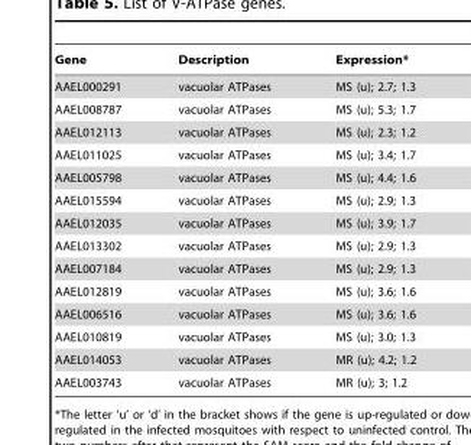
<table><thead><tr><td>Gene</td><td>Description</td><td>Expression*</td></tr></thead><tbody><tr><td>AAEL000291</td><td>vacuolar ATPases</td><td>MS (u); 2.7; 1.3</td></tr><tr><td>AAEL008787</td><td>vacuolar ATPases</td><td>MS (u); 5.3; 1.7</td></tr><tr><td>AAEL012113</td><td>vacuolar ATPases</td><td>MS (u); 2.3; 1.2</td></tr><tr><td>AAEL011025</td><td>vacuolar ATPases</td><td>MS (u); 3.4; 1.7</td></tr><tr><td>AAEL005798</td><td>vacuolar ATPases</td><td>MS (u); 4.4; 1.6</td></tr><tr><td>AAEL015594</td><td>vacuolar ATPases</td><td>MS (u); 2.9; 1.3</td></tr><tr><td>AAEL012035</td><td>vacuolar ATPases</td><td>MS (u); 3.9; 1.7</td></tr><tr><td>AAEL013302</td><td>vacuolar ATPases</td><td>MS (u); 2.9; 1.3</td></tr><tr><td>AAEL007184</td><td>vacuolar ATPases</td><td>MS (u); 2.9; 1.3</td></tr><tr><td>AAEL012819</td><td>vacuolar ATPases</td><td>MS (u); 3.6; 1.6</td></tr><tr><td>AAEL006516</td><td>vacuolar ATPases</td><td>MS (u); 3.6; 1.6</td></tr><tr><td>AAEL010819</td><td>vacuolar ATPases</td><td>MS (u); 3.0; 1.3</td></tr><tr><td>AAEL014053</td><td>vacuolar ATPases</td><td>MR (u); 4.2; 1.2</td></tr><tr><td>AAEL003743</td><td>vacuolar ATPases</td><td>MR (u); 3; 1.2</td></tr></tbody></table>